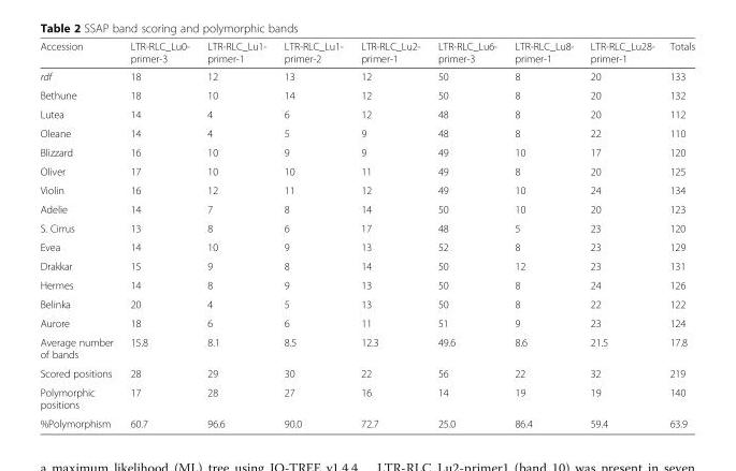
<table><thead><tr><td>Accession</td><td>LTR-RLC_Lu0- primer-3</td><td>LTR-RLC_Lu1- primer-1</td><td>LTR-RLC_Lu1- primer-2</td><td>LTR-RLC_Lu2- primer-1</td><td>LTR-RLC_Lu6- primer-3</td><td>LTR-RLC_Lu8- primer-1</td><td>LTR-RLC_Lu28- primer-1</td><td>Totals</td></tr></thead><tbody><tr><td>rdf</td><td>18</td><td>12</td><td>13</td><td>12</td><td>50</td><td>8</td><td>20</td><td>133</td></tr><tr><td>Bethune</td><td>18</td><td>10</td><td>14</td><td>12</td><td>50</td><td>8</td><td>20</td><td>132</td></tr><tr><td>Lutea</td><td>14</td><td>4</td><td>6</td><td>12</td><td>48</td><td>8</td><td>20</td><td>112</td></tr><tr><td>Oleane</td><td>14</td><td>4</td><td>5</td><td>9</td><td>48</td><td>8</td><td>22</td><td>110</td></tr><tr><td>Blizzard</td><td>16</td><td>10</td><td>9</td><td>9</td><td>49</td><td>10</td><td>17</td><td>120</td></tr><tr><td>Oliver</td><td>17</td><td>10</td><td>10</td><td>11</td><td>49</td><td>8</td><td>20</td><td>125</td></tr><tr><td>Violin</td><td>16</td><td>12</td><td>11</td><td>12</td><td>49</td><td>10</td><td>24</td><td>134</td></tr><tr><td>Adelie</td><td>14</td><td>7</td><td>8</td><td>14</td><td>50</td><td>10</td><td>20</td><td>123</td></tr><tr><td>S. Cirrus</td><td>13</td><td>8</td><td>6</td><td>17</td><td>48</td><td>5</td><td>23</td><td>120</td></tr><tr><td>Evea</td><td>14</td><td>10</td><td>9</td><td>13</td><td>52</td><td>8</td><td>23</td><td>129</td></tr><tr><td>Drakkar</td><td>15</td><td>9</td><td>8</td><td>14</td><td>50</td><td>12</td><td>23</td><td>131</td></tr><tr><td>Hermes</td><td>14</td><td>8</td><td>9</td><td>13</td><td>50</td><td>8</td><td>24</td><td>126</td></tr><tr><td>Belinka</td><td>20</td><td>4</td><td>5</td><td>13</td><td>50</td><td>8</td><td>22</td><td>122</td></tr><tr><td>Aurore</td><td>18</td><td>6</td><td>6</td><td>11</td><td>51</td><td>9</td><td>23</td><td>124</td></tr><tr><td>Average number of bands</td><td>15.8</td><td>8.1</td><td>8.5</td><td>12.3</td><td>49.6</td><td>8.6</td><td>21.5</td><td>17.8</td></tr><tr><td>Scored positions</td><td>28</td><td>29</td><td>30</td><td>22</td><td>56</td><td>22</td><td>32</td><td>219</td></tr><tr><td>Polymorphic positions</td><td>17</td><td>28</td><td>27</td><td>16</td><td>14</td><td>19</td><td>19</td><td>140</td></tr><tr><td>%Polymorphism</td><td>60.7</td><td>96.6</td><td>90.0</td><td>72.7</td><td>25.0</td><td>86.4</td><td>59.4</td><td>63.9</td></tr></tbody></table>